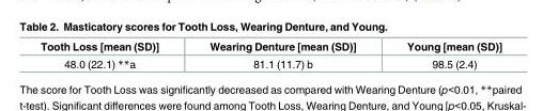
<table><thead><tr><td>Tooth Loss [mean (SD)]</td><td>Wearing Denture [mean (SD)]</td><td>Young [mean (SD)]</td></tr></thead><tbody><tr><td>48.0 (22.1) **a</td><td>81.1 (11.7) b</td><td>98.5 (2.4)</td></tr></tbody></table>